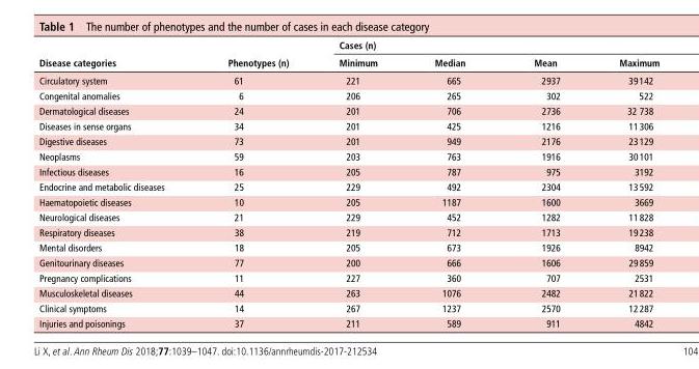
<table><thead><tr><td rowspan="2">disease categories</td><td rowspan="2">Phenotypes (n)</td><td colspan="4">Cases (n)</td></tr><tr><td>Minimum</td><td>Median</td><td>Mean</td><td>Maximum</td></tr></thead><tbody><tr><td>Circulatory system</td><td>61</td><td>221</td><td>665</td><td>2937</td><td>39 142</td></tr><tr><td>Congenital anomalies</td><td>6</td><td>206</td><td>265</td><td>302</td><td>522</td></tr><tr><td>Dermatological diseases</td><td>24</td><td>201</td><td>706</td><td>2736</td><td>32 738</td></tr><tr><td>Diseases in sense organs</td><td>34</td><td>201</td><td>425</td><td>1216</td><td>11 306</td></tr><tr><td>Digestive diseases</td><td>73</td><td>201</td><td>949</td><td>2176</td><td>23 129</td></tr><tr><td>Neoplasms</td><td>59</td><td>203</td><td>763</td><td>1916</td><td>30 101</td></tr><tr><td>Infectious diseases</td><td>16</td><td>205</td><td>787</td><td>975</td><td>3192</td></tr><tr><td>Endocrine and metabolic diseases</td><td>25</td><td>229</td><td>492</td><td>2304</td><td>13 592</td></tr><tr><td>Haematopoietic diseases</td><td>10</td><td>205</td><td>1187</td><td>1600</td><td>3669</td></tr><tr><td>Neurological diseases</td><td>21</td><td>229</td><td>452</td><td>1282</td><td>11 828</td></tr><tr><td>Respiratory diseases</td><td>38</td><td>219</td><td>712</td><td>1713</td><td>19 238</td></tr><tr><td>Mental disorders</td><td>18</td><td>205</td><td>673</td><td>1926</td><td>8942</td></tr><tr><td>Genitourinary diseases</td><td>77</td><td>200</td><td>666</td><td>1606</td><td>29 859</td></tr><tr><td>Pregnancy complications</td><td>11</td><td>227</td><td>360</td><td>707</td><td>2531</td></tr><tr><td>Musculoskeletal diseases</td><td>44</td><td>263</td><td>1076</td><td>2482</td><td>21 822</td></tr><tr><td>Clinical symptoms</td><td>14</td><td>267</td><td>1237</td><td>2570</td><td>12 287</td></tr><tr><td>Injuries and poisonings</td><td>37</td><td>211</td><td>589</td><td>911</td><td>4842</td></tr></tbody></table>